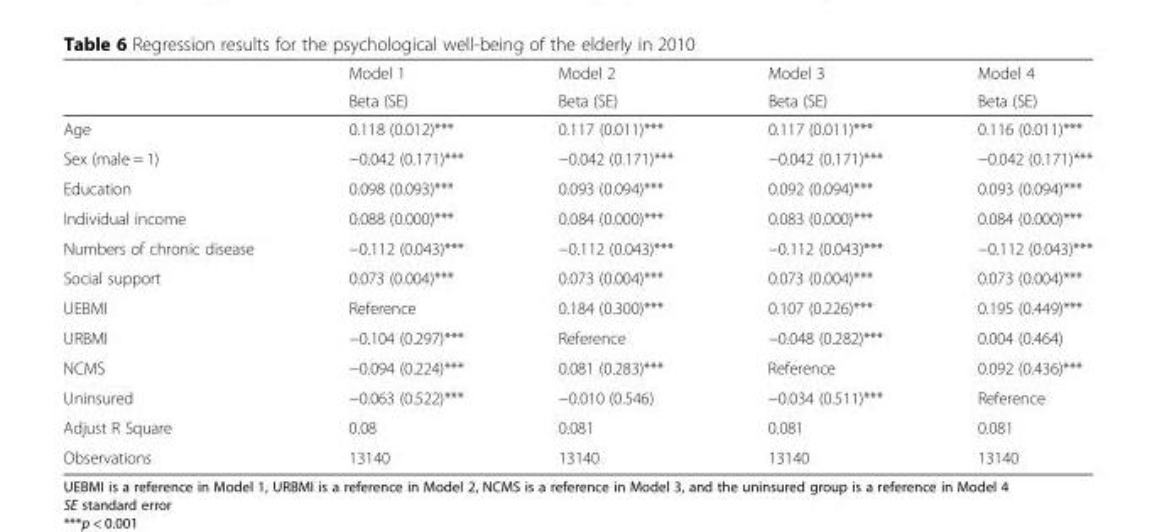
<table><thead><tr><td rowspan="2"></td><td rowspan="2">Model 1 Beta (SE)</td><td rowspan="2">Model 2 Beta (SE)</td><td rowspan="2">Model 3 Beta (SE)</td><td rowspan="2">Model 4 Beta (SE)</td></tr><tr></tr></thead><tbody><tr><td>Age</td><td>0.118 (0.012)***</td><td>0.117 (0.011)***</td><td>0.117 (0.011)***</td><td>0.116 (0.011)***</td></tr><tr><td>Sex (male = 1)</td><td>−0.042 (0.171)***</td><td>−0.042 (0.171)***</td><td>−0.042 (0.171)***</td><td>−0.042 (0.171)***</td></tr><tr><td>Education</td><td>0.098 (0.093)***</td><td>0.093 (0.094)***</td><td>0.092 (0.094)***</td><td>0.093 (0.094)***</td></tr><tr><td>Individual income</td><td>0.088 (0.000)***</td><td>0.084 (0.000)***</td><td>0.083 (0.000)***</td><td>0.084 (0.000)***</td></tr><tr><td>Numbers of chronic disease</td><td>−0.112 (0.043)***</td><td>−0.112 (0.043)***</td><td>−0.112 (0.043)***</td><td>−0.112 (0.043)***</td></tr><tr><td>Social support</td><td>0.073 (0.004)***</td><td>0.073 (0.004)***</td><td>0.073 (0.004)***</td><td>0.073 (0.004)***</td></tr><tr><td>UEBMI</td><td>Reference</td><td>0.184 (0.300)***</td><td>0.107 (0.226)***</td><td>0.195 (0.449)***</td></tr><tr><td>URBMI</td><td>−0.104 (0.297)***</td><td>Reference</td><td>−0.048 (0.282)***</td><td>0.004 (0.464)</td></tr><tr><td>NCMS</td><td>−0.094 (0.224)***</td><td>0.081 (0.283)***</td><td>Reference</td><td>0.092 (0.436)***</td></tr><tr><td>Uninsured</td><td>−0.063 (0.522)***</td><td>−0.010 (0.546)</td><td>−0.034 (0.511)***</td><td>Reference</td></tr><tr><td>Adjust R Square</td><td>0.08</td><td>0.081</td><td>0.081</td><td>0.081</td></tr><tr><td>Observations</td><td>13140</td><td>13140</td><td>13140</td><td>13140</td></tr></tbody></table>